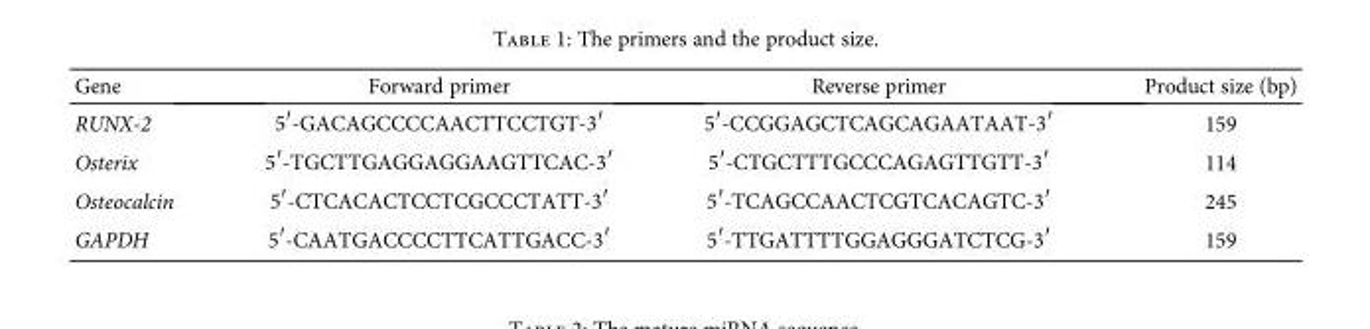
<table><thead><tr><td>Gene</td><td>Forward primer</td><td>Reverse primer</td><td>Product size (bp)</td></tr></thead><tbody><tr><td>RUNX-2</td><td>5′-GACAGCCCCAACTTCCTGT-3′</td><td>5′-CCGGAGCTCAGCAGAATAAT-3′</td><td>159</td></tr><tr><td>Osterix</td><td>5′-TGCTTGAGGAGGAAGTTCAC-3′</td><td>5′-CTGCTTTGCCCAGAGTTGTT-3′</td><td>114</td></tr><tr><td>Osteocalcin</td><td>5′-CTCACACTCCTCGCCCTATT-3′</td><td>5′-TCAGCCAACTCGTCACAGTC-3′</td><td>245</td></tr><tr><td>GAPDH</td><td>5′-CAATGACCCCTTCATTGACC-3′</td><td>5′-TTGATTTTGGAGGGATCTCG-3′</td><td>159</td></tr></tbody></table>